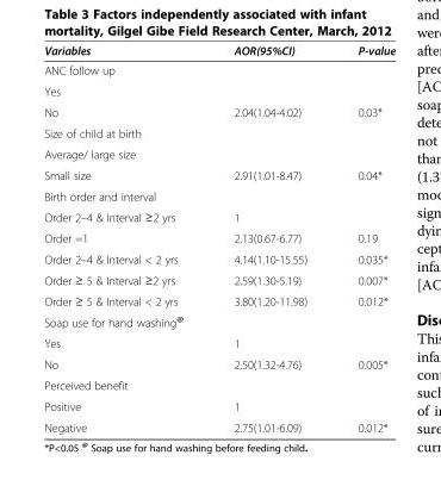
<table><thead><tr><td>Variables</td><td>AOR(95%CI)</td><td>P-value</td></tr></thead><tbody><tr><td colspan="3">ANC follow up</td></tr><tr><td colspan="3">Yes</td></tr><tr><td>No</td><td>2.04(1.04-4.02)</td><td>0.03*</td></tr><tr><td colspan="3">Size of child at birth</td></tr><tr><td colspan="3">Average/ large size</td></tr><tr><td>Small size</td><td>2.91(1.01-8.47)</td><td>0.04*</td></tr><tr><td colspan="3">Birth order and interval</td></tr><tr><td>Order 2–4 &amp; Interval ≥2 yrs</td><td>1</td><td></td></tr><tr><td>Order =1</td><td>2.13(0.67-6.77)</td><td>0.19</td></tr><tr><td>Order 2–4 &amp; Interval &lt; 2 yrs</td><td>4.14(1.10-15.55)</td><td>0.035*</td></tr><tr><td>Order ≥ 5 &amp; Interval ≥2 yrs</td><td>2.59(1.30-5.19)</td><td>0.007*</td></tr><tr><td>Order ≥ 5 &amp; Interval &lt; 2 yrs</td><td>3.80(1.20-11.98)</td><td>0.012*</td></tr><tr><td colspan="3">Soap use for hand washing<sup>@</sup></td></tr><tr><td>Yes</td><td>1</td><td></td></tr><tr><td>No</td><td>2.50(1.32-4.76)</td><td>0.005*</td></tr><tr><td colspan="3">Perceived benefit</td></tr><tr><td>Positive</td><td>1</td><td></td></tr><tr><td>Negative</td><td>2.75(1.01-6.09)</td><td>0.012*</td></tr></tbody></table>